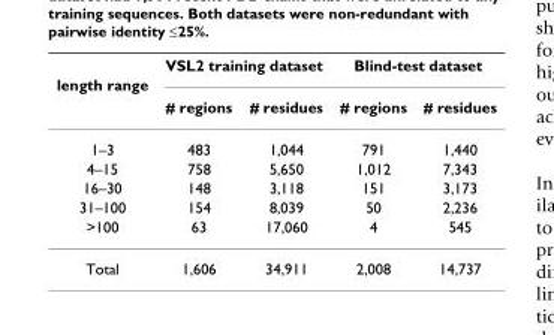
<table><thead><tr><td rowspan="3">length range</td><td colspan="2">VSL2 training dataset</td><td colspan="2">Blind-test dataset</td></tr><tr><td rowspan="2"># regions</td><td rowspan="2"># residues</td><td rowspan="2"># regions</td><td rowspan="2"># residues</td></tr><tr></tr></thead><tbody><tr><td>1–3</td><td>483</td><td>1,044</td><td>791</td><td>1,440</td></tr><tr><td>4–15</td><td>758</td><td>5,650</td><td>1,012</td><td>7,343</td></tr><tr><td>16–30</td><td>148</td><td>3,118</td><td>151</td><td>3,173</td></tr><tr><td>31–100</td><td>154</td><td>8,039</td><td>50</td><td>2,236</td></tr><tr><td>&gt;100</td><td>63</td><td>17,060</td><td>4</td><td>545</td></tr><tr><td>Total</td><td>1,606</td><td>34,911</td><td>2,008</td><td>14,737</td></tr></tbody></table>